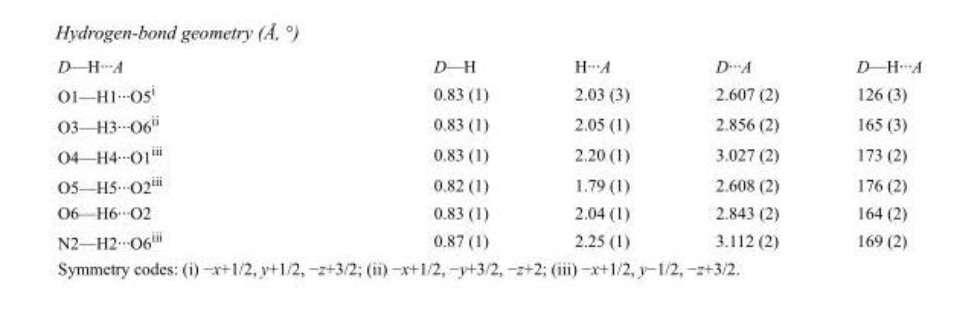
<table><tbody><tr><td>D—H···A</td><td>D—H</td><td>H···A</td><td>D···A</td><td>D—H···A</td></tr><tr><td>O1—H1···O5<sup>i</sup></td><td>0.83 (1)</td><td>2.03 (3)</td><td>2.607 (2)</td><td>126 (3)</td></tr><tr><td>O3—H3···O6<sup>ii</sup></td><td>0.83 (1)</td><td>2.05 (1)</td><td>2.856 (2)</td><td>165 (3)</td></tr><tr><td>O4—H4···O1<sup>iii</sup></td><td>0.83 (1)</td><td>2.20 (1)</td><td>3.027 (2)</td><td>173 (2)</td></tr><tr><td>O5—H5···O2<sup>iii</sup></td><td>0.82 (1)</td><td>1.79 (1)</td><td>2.608 (2)</td><td>176 (2)</td></tr><tr><td>O6—H6···O2</td><td>0.83 (1)</td><td>2.04 (1)</td><td>2.843 (2)</td><td>164 (2)</td></tr><tr><td>N2—H2···O6<sup>iii</sup></td><td>0.87 (1)</td><td>2.25 (1)</td><td>3.112 (2)</td><td>169 (2)</td></tr></tbody></table>